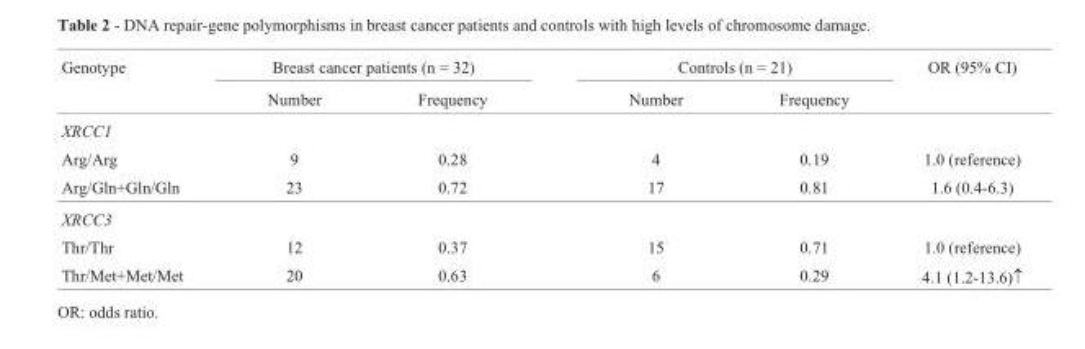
<table><thead><tr><td rowspan="2">Genotype</td><td colspan="2">Breast cancer patients (n = 32)</td><td colspan="2">Controls (n = 21)</td><td rowspan="2">OR (95% CI)</td></tr><tr><td>Number</td><td>Frequency</td><td>Number</td><td>Frequency</td></tr></thead><tbody><tr><td colspan="6">XRCC1</td></tr><tr><td>Arg/Arg</td><td>9</td><td>0.28</td><td>4</td><td>0.19</td><td>1.0 (reference)</td></tr><tr><td>Arg/Gln+Gln/Gln</td><td>23</td><td>0.72</td><td>17</td><td>0.81</td><td>1.6 (0.4-6.3)</td></tr><tr><td colspan="6">XRCC3</td></tr><tr><td>Thr/Thr</td><td>12</td><td>0.37</td><td>15</td><td>0.71</td><td>1.0 (reference)</td></tr><tr><td>Thr/Met+Met/Met</td><td>20</td><td>0.63</td><td>6</td><td>0.29</td><td>4.1 (1.2-13.6)↑</td></tr></tbody></table>